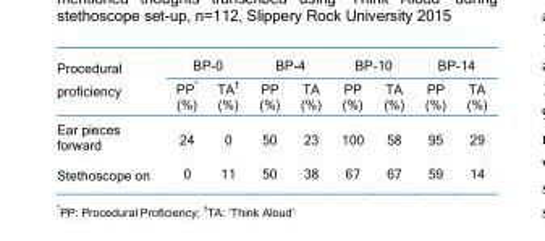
<table><thead><tr><td rowspan="2">Procedural proficiency</td><td colspan="2">BP-0</td><td colspan="2">BP-4</td><td colspan="2">BP-10</td><td colspan="2">BP-14</td></tr><tr><td>PP* (%)</td><td>TA<sup>†</sup> (%)</td><td>PP (%)</td><td>TA (%)</td><td>PP (%)</td><td>TA (%)</td><td>PP (%)</td><td>TA (%)</td></tr></thead><tbody><tr><td>Ear pieces forward</td><td>24</td><td>0</td><td>50</td><td>23</td><td>100</td><td>58</td><td>95</td><td>29</td></tr><tr><td>Stethoscope on</td><td>0</td><td>11</td><td>50</td><td>38</td><td>67</td><td>67</td><td>59</td><td>14</td></tr></tbody></table>